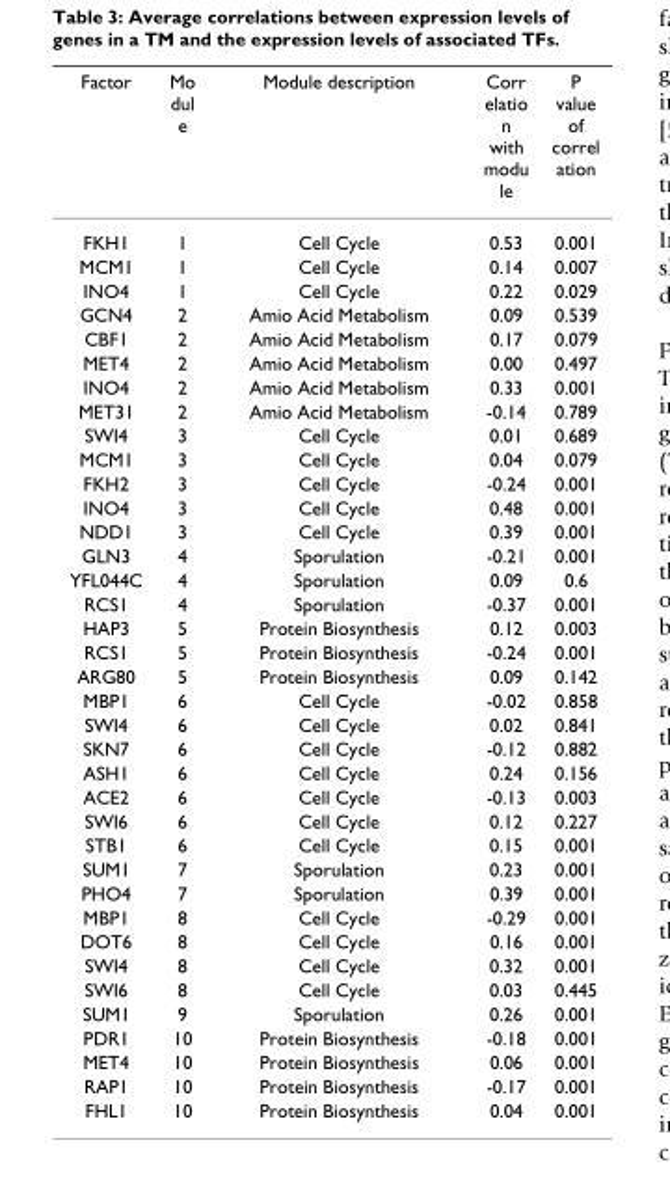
<table><thead><tr><td>Factor</td><td>Mo dul e</td><td>Module description</td><td>Corr elatio n with modu le</td><td>P value of correl ation</td></tr></thead><tbody><tr><td>FKH1</td><td>1</td><td>Cell Cycle</td><td>0.53</td><td>0.001</td></tr><tr><td>MCM1</td><td>1</td><td>Cell Cycle</td><td>0.14</td><td>0.007</td></tr><tr><td>INO4</td><td>1</td><td>Cell Cycle</td><td>0.22</td><td>0.029</td></tr><tr><td>GCN4</td><td>2</td><td>Amio Acid Metabolism</td><td>0.09</td><td>0.539</td></tr><tr><td>CBF1</td><td>2</td><td>Amio Acid Metabolism</td><td>0.17</td><td>0.079</td></tr><tr><td>MET4</td><td>2</td><td>Amio Acid Metabolism</td><td>0.00</td><td>0.497</td></tr><tr><td>INO4</td><td>2</td><td>Amio Acid Metabolism</td><td>0.33</td><td>0.001</td></tr><tr><td>MET31</td><td>2</td><td>Amio Acid Metabolism</td><td>-0.14</td><td>0.789</td></tr><tr><td>SWI4</td><td>3</td><td>Cell Cycle</td><td>0.01</td><td>0.689</td></tr><tr><td>MCM1</td><td>3</td><td>Cell Cycle</td><td>0.04</td><td>0.079</td></tr><tr><td>FKH2</td><td>3</td><td>Cell Cycle</td><td>-0.24</td><td>0.001</td></tr><tr><td>INO4</td><td>3</td><td>Cell Cycle</td><td>0.48</td><td>0.001</td></tr><tr><td>NDD1</td><td>3</td><td>Cell Cycle</td><td>0.39</td><td>0.001</td></tr><tr><td>GLN3</td><td>4</td><td>Sporulation</td><td>-0.21</td><td>0.001</td></tr><tr><td>YFL044C</td><td>4</td><td>Sporulation</td><td>0.09</td><td>0.6</td></tr><tr><td>RCS1</td><td>4</td><td>Sporulation</td><td>-0.37</td><td>0.001</td></tr><tr><td>HAP3</td><td>5</td><td>Protein Biosynthesis</td><td>0.12</td><td>0.003</td></tr><tr><td>RCS1</td><td>5</td><td>Protein Biosynthesis</td><td>-0.24</td><td>0.001</td></tr><tr><td>ARG80</td><td>5</td><td>Protein Biosynthesis</td><td>0.09</td><td>0.142</td></tr><tr><td>MBP1</td><td>6</td><td>Cell Cycle</td><td>-0.02</td><td>0.858</td></tr><tr><td>SWI4</td><td>6</td><td>Cell Cycle</td><td>0.02</td><td>0.841</td></tr><tr><td>SKN7</td><td>6</td><td>Cell Cycle</td><td>-0.12</td><td>0.882</td></tr><tr><td>ASH1</td><td>6</td><td>Cell Cycle</td><td>0.24</td><td>0.156</td></tr><tr><td>ACE2</td><td>6</td><td>Cell Cycle</td><td>-0.13</td><td>0.003</td></tr><tr><td>SWI6</td><td>6</td><td>Cell Cycle</td><td>0.12</td><td>0.227</td></tr><tr><td>STB1</td><td>6</td><td>Cell Cycle</td><td>0.15</td><td>0.001</td></tr><tr><td>SUM1</td><td>7</td><td>Sporulation</td><td>0.23</td><td>0.001</td></tr><tr><td>PHO4</td><td>7</td><td>Sporulation</td><td>0.39</td><td>0.001</td></tr><tr><td>MBP1</td><td>8</td><td>Cell Cycle</td><td>-0.29</td><td>0.001</td></tr><tr><td>DOT6</td><td>8</td><td>Cell Cycle</td><td>0.16</td><td>0.001</td></tr><tr><td>SWI4</td><td>8</td><td>Cell Cycle</td><td>0.32</td><td>0.001</td></tr><tr><td>SWI6</td><td>8</td><td>Cell Cycle</td><td>0.03</td><td>0.445</td></tr><tr><td>SUM1</td><td>9</td><td>Sporulation</td><td>0.26</td><td>0.001</td></tr><tr><td>PDR1</td><td>10</td><td>Protein Biosynthesis</td><td>-0.18</td><td>0.001</td></tr><tr><td>MET4</td><td>10</td><td>Protein Biosynthesis</td><td>0.06</td><td>0.001</td></tr><tr><td>RAP1</td><td>10</td><td>Protein Biosynthesis</td><td>-0.17</td><td>0.001</td></tr><tr><td>FHL1</td><td>10</td><td>Protein Biosynthesis</td><td>0.04</td><td>0.001</td></tr></tbody></table>